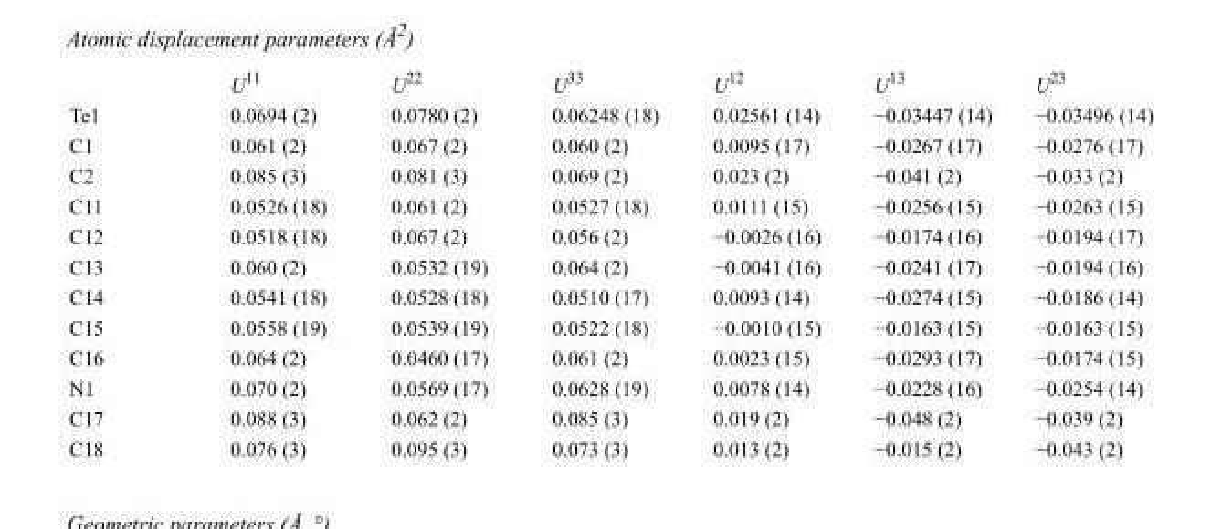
<table><thead><tr><td></td><td>U<sup>11</sup></td><td>U<sup>22</sup></td><td>U<sup>33</sup></td><td>U<sup>12</sup></td><td>U<sup>13</sup></td><td>U<sup>23</sup></td></tr></thead><tbody><tr><td>Te1</td><td>0.0694 (2)</td><td>0.0780 (2)</td><td>0.06248 (18)</td><td>0.02561 (14)</td><td>−0.03447 (14)</td><td>−0.03496 (14)</td></tr><tr><td>C1</td><td>0.061 (2)</td><td>0.067 (2)</td><td>0.060 (2)</td><td>0.0095 (17)</td><td>−0.0267 (17)</td><td>−0.0276 (17)</td></tr><tr><td>C2</td><td>0.085 (3)</td><td>0.081 (3)</td><td>0.069 (2)</td><td>0.023 (2)</td><td>−0.041 (2)</td><td>−0.033 (2)</td></tr><tr><td>C11</td><td>0.0526 (18)</td><td>0.061 (2)</td><td>0.0527 (18)</td><td>0.0111 (15)</td><td>−0.0256 (15)</td><td>−0.0263 (15)</td></tr><tr><td>C12</td><td>0.0518 (18)</td><td>0.067 (2)</td><td>0.056 (2)</td><td>−0.0026 (16)</td><td>−0.0174 (16)</td><td>−0.0194 (17)</td></tr><tr><td>C13</td><td>0.060 (2)</td><td>0.0532 (19)</td><td>0.064 (2)</td><td>−0.0041 (16)</td><td>−0.0241 (17)</td><td>−0.0194 (16)</td></tr><tr><td>C14</td><td>0.0541 (18)</td><td>0.0528 (18)</td><td>0.0510 (17)</td><td>0.0093 (14)</td><td>−0.0274 (15)</td><td>−0.0186 (14)</td></tr><tr><td>C15</td><td>0.0558 (19)</td><td>0.0539 (19)</td><td>0.0522 (18)</td><td>−0.0010 (15)</td><td>−0.0163 (15)</td><td>−0.0163 (15)</td></tr><tr><td>C16</td><td>0.064 (2)</td><td>0.0460 (17)</td><td>0.061 (2)</td><td>0.0023 (15)</td><td>−0.0293 (17)</td><td>−0.0174 (15)</td></tr><tr><td>N1</td><td>0.070 (2)</td><td>0.0569 (17)</td><td>0.0628 (19)</td><td>0.0078 (14)</td><td>−0.0228 (16)</td><td>−0.0254 (14)</td></tr><tr><td>C17</td><td>0.088 (3)</td><td>0.062 (2)</td><td>0.085 (3)</td><td>0.019 (2)</td><td>−0.048 (2)</td><td>−0.039 (2)</td></tr><tr><td>C18</td><td>0.076 (3)</td><td>0.095 (3)</td><td>0.073 (3)</td><td>0.013 (2)</td><td>−0.015 (2)</td><td>−0.043 (2)</td></tr></tbody></table>